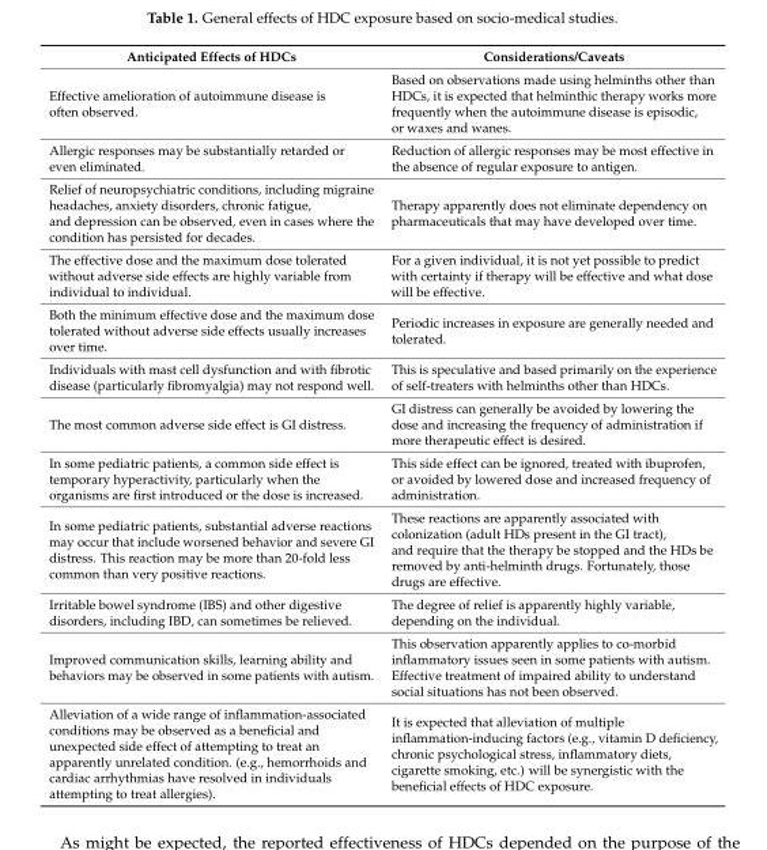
<table><thead><tr><td>Anticipated Effects of HDCs</td><td>Considerations/Caveats</td></tr></thead><tbody><tr><td>Effective amelioration of autoimmune disease is often observed.</td><td>Based on observations made using helminths other than HDCs, it is expected that helminthic therapy works more frequently when the autoimmune disease is episodic, or waxes and wanes.</td></tr><tr><td>Allergic responses may be substantially retarded or even eliminated.</td><td>Reduction of allergic responses may be most effective in the absence of regular exposure to antigen.</td></tr><tr><td>Relief of neuropsychiatric conditions, including migraine headaches, anxiety disorders, chronic fatigue, and depression can be observed, even in cases where the condition has persisted for decades.</td><td>Therapy apparently does not eliminate dependency on pharmaceuticals that may have developed over time.</td></tr><tr><td>The effective dose and the maximum dose tolerated without adverse side effects are highly variable from individual to individual.</td><td>For a given individual, it is not yet possible to predict with certainty if therapy will be effective and what dose will be effective.</td></tr><tr><td>Both the minimum effective dose and the maximum dose tolerated without adverse side effects usually increases over time.</td><td>Periodic increases in exposure are generally needed and tolerated.</td></tr><tr><td>Individuals with mast cell dysfunction and with fibrotic disease (particularly fibromyalgia) may not respond well.</td><td>This is speculative and based primarily on the experience of self-treaters with helminths other than HDCs.</td></tr><tr><td>The most common adverse side effect is GI distress.</td><td>GI distress can generally be avoided by lowering the dose and increasing the frequency of administration if more therapeutic effect is desired.</td></tr><tr><td>In some pediatric patients, a common side effect is temporary hyperactivity, particularly when the organisms are first introduced or the dose is increased.</td><td>This side effect can be ignored, treated with ibuprofen, or avoided by lowered dose and increased frequency of administration.</td></tr><tr><td>In some pediatric patients, substantial adverse reactions may occur that include worsened behavior and severe GI distress. This reaction may be more than 20-fold less common than very positive reactions.</td><td>These reactions are apparently associated with colonization (adult HDs present in the GI tract), and require that the therapy be stopped and the HDs be removed by anti-helminth drugs. Fortunately, those drugs are effective.</td></tr><tr><td>Irritable bowel syndrome (IBS) and other digestive disorders, including IBD, can sometimes be relieved.</td><td>The degree of relief is apparently highly variable, depending on the individual.</td></tr><tr><td>Improved communication skills, learning ability and behaviors may be observed in some patients with autism.</td><td>This observation apparently applies to co-morbid inflammatory issues seen in some patients with autism. Effective treatment of impaired ability to understand social situations has not been observed.</td></tr><tr><td>Alleviation of a wide range of inflammation-associated conditions may be observed as a beneficial and unexpected side effect of attempting to treat an apparently unrelated condition. (e.g., hemorrhoids and cardiac arrhythmias have resolved in individuals attempting to treat allergies).</td><td>It is expected that alleviation of multiple inflammation-inducing factors (e.g., vitamin D deficiency, chronic psychological stress, inflammatory diets, cigarette smoking, etc.) will be synergistic with the beneficial effects of HDC exposure.</td></tr></tbody></table>